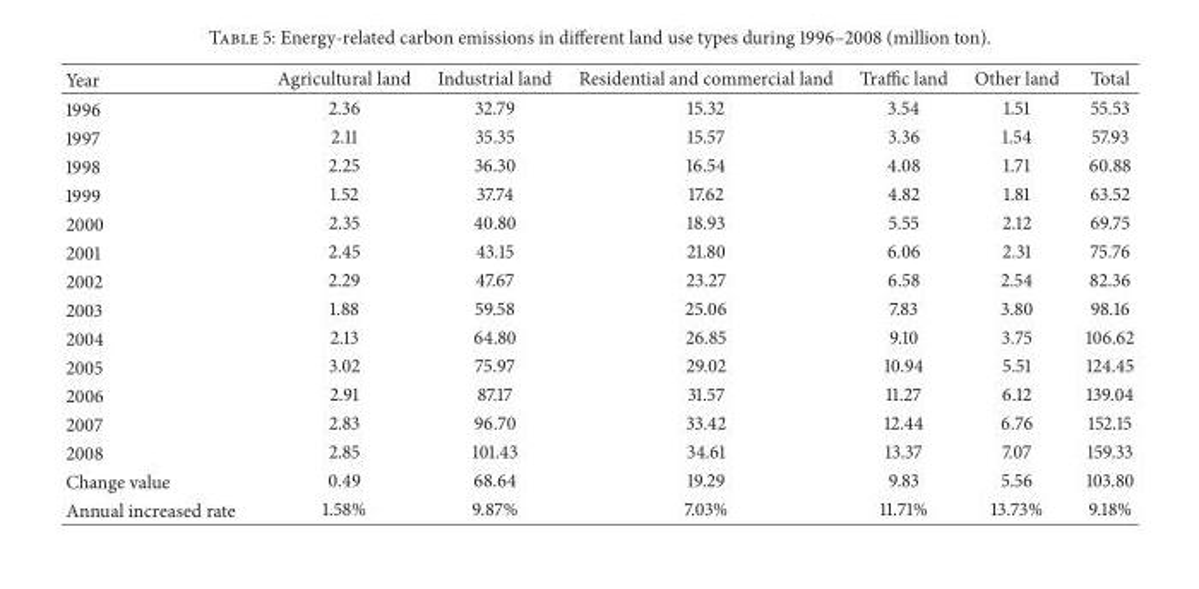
<table><thead><tr><td>Year</td><td>Agricultural land</td><td>Industrial land</td><td>Residential and commercial land</td><td>Traffic land</td><td>Other land</td><td>Total</td></tr></thead><tbody><tr><td>1996</td><td>2.36</td><td>32.79</td><td>15.32</td><td>3.54</td><td>1.51</td><td>55.53</td></tr><tr><td>1997</td><td>2.11</td><td>35.35</td><td>15.57</td><td>3.36</td><td>1.54</td><td>57.93</td></tr><tr><td>1998</td><td>2.25</td><td>36.30</td><td>16.54</td><td>4.08</td><td>1.71</td><td>60.88</td></tr><tr><td>1999</td><td>1.52</td><td>37.74</td><td>17.62</td><td>4.82</td><td>1.81</td><td>63.52</td></tr><tr><td>2000</td><td>2.35</td><td>40.80</td><td>18.93</td><td>5.55</td><td>2.12</td><td>69.75</td></tr><tr><td>2001</td><td>2.45</td><td>43.15</td><td>21.80</td><td>6.06</td><td>2.31</td><td>75.76</td></tr><tr><td>2002</td><td>2.29</td><td>47.67</td><td>23.27</td><td>6.58</td><td>2.54</td><td>82.36</td></tr><tr><td>2003</td><td>1.88</td><td>59.58</td><td>25.06</td><td>7.83</td><td>3.80</td><td>98.16</td></tr><tr><td>2004</td><td>2.13</td><td>64.80</td><td>26.85</td><td>9.10</td><td>3.75</td><td>106.62</td></tr><tr><td>2005</td><td>3.02</td><td>75.97</td><td>29.02</td><td>10.94</td><td>5.51</td><td>124.45</td></tr><tr><td>2006</td><td>2.91</td><td>87.17</td><td>31.57</td><td>11.27</td><td>6.12</td><td>139.04</td></tr><tr><td>2007</td><td>2.83</td><td>96.70</td><td>33.42</td><td>12.44</td><td>6.76</td><td>152.15</td></tr><tr><td>2008</td><td>2.85</td><td>101.43</td><td>34.61</td><td>13.37</td><td>7.07</td><td>159.33</td></tr><tr><td>Change value</td><td>0.49</td><td>68.64</td><td>19.29</td><td>9.83</td><td>5.56</td><td>103.80</td></tr><tr><td>Annual increased rate</td><td>1.58%</td><td>9.87%</td><td>7.03%</td><td>11.71%</td><td>13.73%</td><td>9.18%</td></tr></tbody></table>